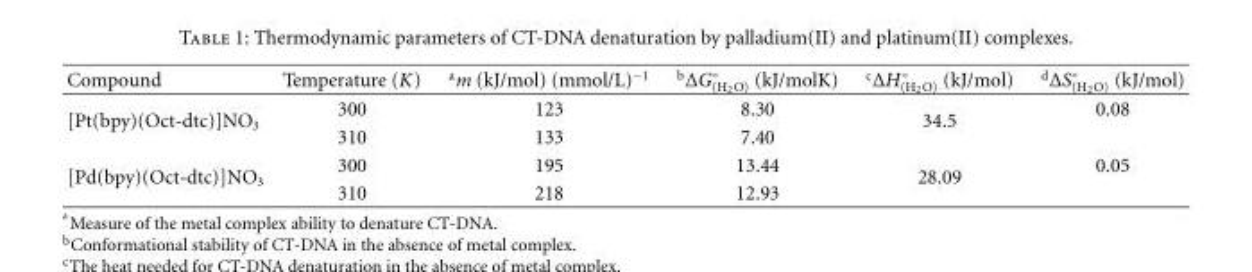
<table><thead><tr><td>Compound</td><td>Temperature (K)</td><td><sup>a</sup>m (kJ/mol) (mmol/L)<sup>−1</sup></td><td>bΔG◦ (H2O) (kJ/molK)</td><td>cΔH◦ (H2O) (kJ/mol)</td><td>dΔS◦ (H2O) (kJ/mol)</td></tr></thead><tbody><tr><td rowspan="2">[Pt(bpy)(Oct-dtc)]NO<sub>3</sub></td><td>300</td><td>123</td><td>8.30</td><td rowspan="2">34.5</td><td>0.08</td></tr><tr><td>310</td><td>133</td><td>7.40</td><td></td></tr><tr><td rowspan="2">[Pd(bpy)(Oct-dtc)]NO<sub>3</sub></td><td>300</td><td>195</td><td>13.44</td><td rowspan="2">28.09</td><td>0.05</td></tr><tr><td>310</td><td>218</td><td>12.93</td><td></td></tr></tbody></table>